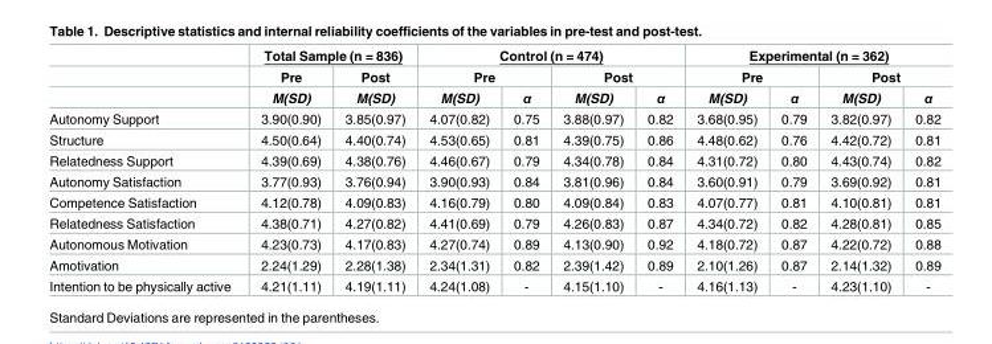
<table><thead><tr><td rowspan="3"></td><td colspan="2">Total Sample (n = 836)</td><td colspan="4">Control (n = 474)</td><td colspan="4">Experimental (n = 362)</td></tr><tr><td rowspan="2">Pre M(SD)</td><td rowspan="2">Post M(SD)</td><td colspan="2">Pre</td><td colspan="2">Post</td><td colspan="2">Pre</td><td colspan="2">Post</td></tr><tr><td>M(SD)</td><td>α</td><td>M(SD)</td><td>α</td><td>M(SD)</td><td>α</td><td>M(SD)</td><td>α</td></tr></thead><tbody><tr><td>Autonomy Support</td><td>3.90(0.90)</td><td>3.85(0.97)</td><td>4.07(0.82)</td><td>0.75</td><td>3.88(0.97)</td><td>0.82</td><td>3.68(0.95)</td><td>0.79</td><td>3.82(0.97)</td><td>0.82</td></tr><tr><td>Structure</td><td>4.50(0.64)</td><td>4.40(0.74)</td><td>4.53(0.65)</td><td>0.81</td><td>4.39(0.75)</td><td>0.86</td><td>4.48(0.62)</td><td>0.76</td><td>4.42(0.72)</td><td>0.81</td></tr><tr><td>Relatedness Support</td><td>4.39(0.69)</td><td>4.38(0.76)</td><td>4.46(0.67)</td><td>0.79</td><td>4.34(0.78)</td><td>0.84</td><td>4.31(0.72)</td><td>0.80</td><td>4.43(0.74)</td><td>0.82</td></tr><tr><td>Autonomy Satisfaction</td><td>3.77(0.93)</td><td>3.76(0.94)</td><td>3.90(0.93)</td><td>0.84</td><td>3.81(0.96)</td><td>0.84</td><td>3.60(0.91)</td><td>0.79</td><td>3.69(0.92)</td><td>0.81</td></tr><tr><td>Competence Satisfaction</td><td>4.12(0.78)</td><td>4.09(0.83)</td><td>4.16(0.79)</td><td>0.80</td><td>4.09(0.84)</td><td>0.83</td><td>4.07(0.77)</td><td>0.81</td><td>4.10(0.81)</td><td>0.81</td></tr><tr><td>Relatedness Satisfaction</td><td>4.38(0.71)</td><td>4.27(0.82)</td><td>4.41(0.69)</td><td>0.79</td><td>4.26(0.83)</td><td>0.87</td><td>4.34(0.72)</td><td>0.82</td><td>4.28(0.81)</td><td>0.85</td></tr><tr><td>Autonomous Motivation</td><td>4.23(0.73)</td><td>4.17(0.83)</td><td>4.27(0.74)</td><td>0.89</td><td>4.13(0.90)</td><td>0.92</td><td>4.18(0.72)</td><td>0.87</td><td>4.22(0.72)</td><td>0.88</td></tr><tr><td>Amotivation</td><td>2.24(1.29)</td><td>2.28(1.38)</td><td>2.34(1.31)</td><td>0.82</td><td>2.39(1.42)</td><td>0.89</td><td>2.10(1.26)</td><td>0.87</td><td>2.14(1.32)</td><td>0.89</td></tr><tr><td>Intention to be physically active</td><td>4.21(1.11)</td><td>4.19(1.11)</td><td>4.24(1.08)</td><td>-</td><td>4.15(1.10)</td><td>-</td><td>4.16(1.13)</td><td>-</td><td>4.23(1.10)</td><td>-</td></tr></tbody></table>